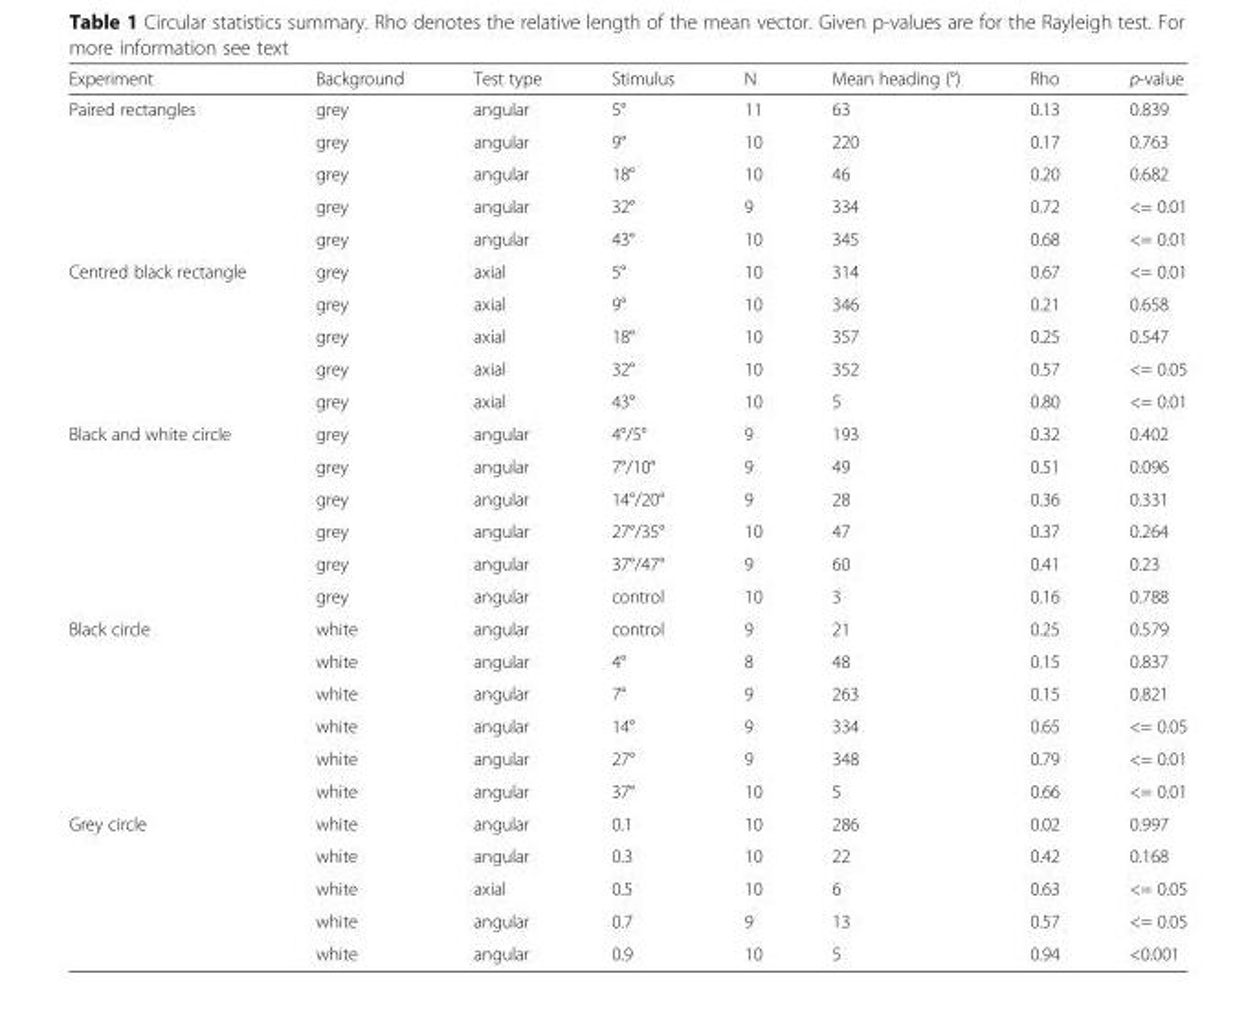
<table><thead><tr><td>Experiment</td><td>Background</td><td>Test type</td><td>Stimulus</td><td>N</td><td>Mean heading (°)</td><td>Rho</td><td>p-value</td></tr></thead><tbody><tr><td rowspan="5">Paired rectangles</td><td>grey</td><td>angular</td><td>5°</td><td>11</td><td>63</td><td>0.13</td><td>0.839</td></tr><tr><td>grey</td><td>angular</td><td>9°</td><td>10</td><td>220</td><td>0.17</td><td>0.763</td></tr><tr><td>grey</td><td>angular</td><td>18°</td><td>10</td><td>46</td><td>0.20</td><td>0.682</td></tr><tr><td>grey</td><td>angular</td><td>32°</td><td>9</td><td>334</td><td>0.72</td><td>&lt;= 0.01</td></tr><tr><td>grey</td><td>angular</td><td>43°</td><td>10</td><td>345</td><td>0.68</td><td>&lt;= 0.01</td></tr><tr><td rowspan="5">Centred black rectangle</td><td>grey</td><td>axial</td><td>5°</td><td>10</td><td>314</td><td>0.67</td><td>&lt;= 0.01</td></tr><tr><td>grey</td><td>axial</td><td>9°</td><td>10</td><td>346</td><td>0.21</td><td>0.658</td></tr><tr><td>grey</td><td>axial</td><td>18°</td><td>10</td><td>357</td><td>0.25</td><td>0.547</td></tr><tr><td>grey</td><td>axial</td><td>32°</td><td>10</td><td>352</td><td>0.57</td><td>&lt;= 0.05</td></tr><tr><td>grey</td><td>axial</td><td>43°</td><td>10</td><td>5</td><td>0.80</td><td>&lt;= 0.01</td></tr><tr><td rowspan="6">Black and white circle</td><td>grey</td><td>angular</td><td>4°/5°</td><td>9</td><td>193</td><td>0.32</td><td>0.402</td></tr><tr><td>grey</td><td>angular</td><td>7°/10°</td><td>9</td><td>49</td><td>0.51</td><td>0.096</td></tr><tr><td>grey</td><td>angular</td><td>14°/20°</td><td>9</td><td>28</td><td>0.36</td><td>0.331</td></tr><tr><td>grey</td><td>angular</td><td>27°/35°</td><td>10</td><td>47</td><td>0.37</td><td>0.264</td></tr><tr><td>grey</td><td>angular</td><td>37°/47°</td><td>9</td><td>60</td><td>0.41</td><td>0.23</td></tr><tr><td>grey</td><td>angular</td><td>control</td><td>10</td><td>3</td><td>0.16</td><td>0.788</td></tr><tr><td rowspan="6">Black circle</td><td>white</td><td>angular</td><td>control</td><td>9</td><td>21</td><td>0.25</td><td>0.579</td></tr><tr><td>white</td><td>angular</td><td>4°</td><td>8</td><td>48</td><td>0.15</td><td>0.837</td></tr><tr><td>white</td><td>angular</td><td>7°</td><td>9</td><td>263</td><td>0.15</td><td>0.821</td></tr><tr><td>white</td><td>angular</td><td>14°</td><td>9</td><td>334</td><td>0.65</td><td>&lt;= 0.05</td></tr><tr><td>white</td><td>angular</td><td>27°</td><td>9</td><td>348</td><td>0.79</td><td>&lt;= 0.01</td></tr><tr><td>white</td><td>angular</td><td>37°</td><td>10</td><td>5</td><td>0.66</td><td>&lt;= 0.01</td></tr><tr><td rowspan="5">Grey circle</td><td>white</td><td>angular</td><td>0.1</td><td>10</td><td>286</td><td>0.02</td><td>0.997</td></tr><tr><td>white</td><td>angular</td><td>0.3</td><td>10</td><td>22</td><td>0.42</td><td>0.168</td></tr><tr><td>white</td><td>axial</td><td>0.5</td><td>10</td><td>6</td><td>0.63</td><td>&lt;= 0.05</td></tr><tr><td>white</td><td>angular</td><td>0.7</td><td>9</td><td>13</td><td>0.57</td><td>&lt;= 0.05</td></tr><tr><td>white</td><td>angular</td><td>0.9</td><td>10</td><td>5</td><td>0.94</td><td>&lt;0.001</td></tr></tbody></table>